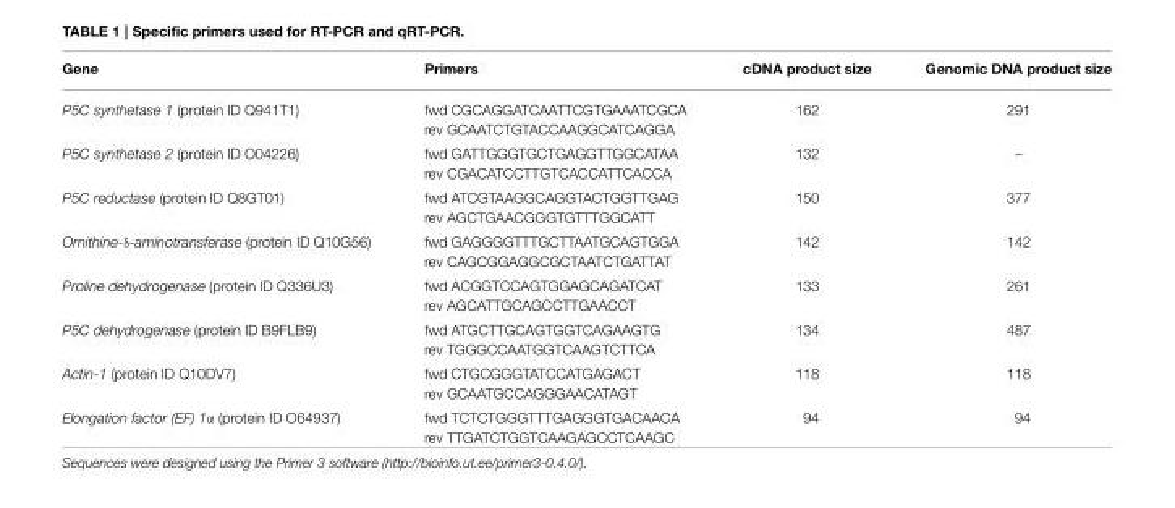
<table><thead><tr><td>Gene</td><td>Primers</td><td>cDNA product size</td><td>Genomic DNA product size</td></tr></thead><tbody><tr><td>P5C synthetase 1 (protein ID Q941T1)</td><td>fwd CGCAGGATCAATTCGTGAAATCGCA rev GCAATCTGTACCAAGGCATCAGGA</td><td>162</td><td>291</td></tr><tr><td>P5C synthetase 2 (protein ID O04226)</td><td>fwd GATTGGGTGCTGAGGTTGGCATAA rev CGACATCCTTGTCACCATTCACCA</td><td>132</td><td>–</td></tr><tr><td>P5C reductase (protein ID Q8GT01)</td><td>fwd ATCGTAAGGCAGGTACTGGTTGAG rev AGCTGAACGGGTGTTTGGCATT</td><td>150</td><td>377</td></tr><tr><td>Ornithine-δ-aminotransferase (protein ID Q10G56)</td><td>fwd GAGGGGTTTGCTTAATGCAGTGGA rev CAGCGGAGGCGCTAATCTGATTAT</td><td>142</td><td>142</td></tr><tr><td>Proline dehydrogenase (protein ID Q336U3)</td><td>fwd ACGGTCCAGTGGAGCAGATCAT rev AGCATTGCAGCCTTGAACCT</td><td>133</td><td>261</td></tr><tr><td>P5C dehydrogenase (protein ID B9FLB9)</td><td>fwd ATGCTTGCAGTGGTCAGAAGTG rev TGGGCCAATGGTCAAGTCTTCA</td><td>134</td><td>487</td></tr><tr><td>Actin-1 (protein ID Q10DV7)</td><td>fwd CTGCGGGTATCCATGAGACT rev GCAATGCCAGGGAACATAGT</td><td>118</td><td>118</td></tr><tr><td>Elongation factor (EF) 1α (protein ID O64937)</td><td>fwd TCTCTGGGTTTGAGGGTGACAACA rev TTGATCTGGTCAAGAGCCTCAAGC</td><td>94</td><td>94</td></tr></tbody></table>